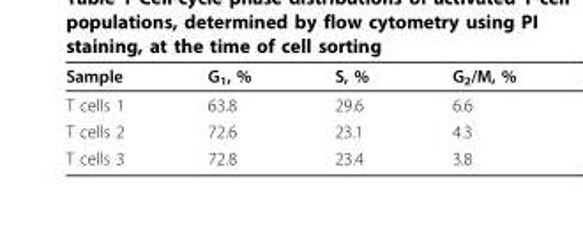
<table><thead><tr><td>Sample</td><td>G<sub>1</sub>, %</td><td>S, %</td><td>G<sub>2</sub>/M, %</td></tr></thead><tbody><tr><td>T cells 1</td><td>63.8</td><td>29.6</td><td>6.6</td></tr><tr><td>T cells 2</td><td>72.6</td><td>23.1</td><td>4.3</td></tr><tr><td>T cells 3</td><td>72.8</td><td>23.4</td><td>3.8</td></tr></tbody></table>